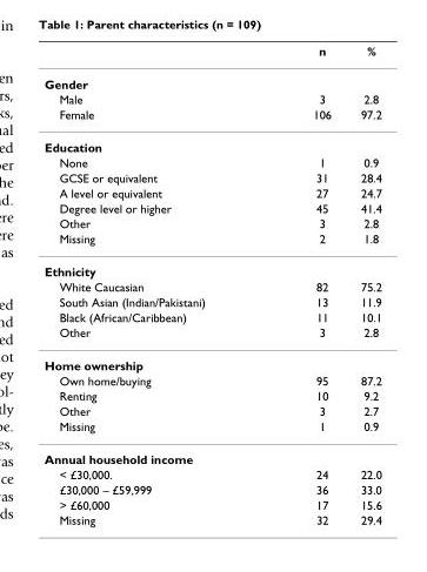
<table><thead><tr><td></td><td>n</td><td>%</td></tr></thead><tbody><tr><td colspan="3">Gender</td></tr><tr><td>Male</td><td>3</td><td>2.8</td></tr><tr><td>Female</td><td>106</td><td>97.2</td></tr><tr><td colspan="3">Education</td></tr><tr><td>None</td><td>1</td><td>0.9</td></tr><tr><td>GCSE or equivalent</td><td>31</td><td>28.4</td></tr><tr><td>A level or equivalent</td><td>27</td><td>24.7</td></tr><tr><td>Degree level or higher</td><td>45</td><td>41.4</td></tr><tr><td>Other</td><td>3</td><td>2.8</td></tr><tr><td>Missing</td><td>2</td><td>1.8</td></tr><tr><td colspan="3">Ethnicity</td></tr><tr><td>White Caucasian</td><td>82</td><td>75.2</td></tr><tr><td>South Asian (Indian/Pakistani)</td><td>13</td><td>11.9</td></tr><tr><td>Black (African/Caribbean)</td><td>11</td><td>10.1</td></tr><tr><td>Other</td><td>3</td><td>2.8</td></tr><tr><td colspan="3">Home ownership</td></tr><tr><td>Own home/buying</td><td>95</td><td>87.2</td></tr><tr><td>Renting</td><td>10</td><td>9.2</td></tr><tr><td>Other</td><td>3</td><td>2.7</td></tr><tr><td>Missing</td><td>1</td><td>0.9</td></tr><tr><td colspan="3">Annual household income</td></tr><tr><td>&lt; £30,000.</td><td>24</td><td>22.0</td></tr><tr><td>£30,000 – £59,999</td><td>36</td><td>33.0</td></tr><tr><td>&gt; £60,000</td><td>17</td><td>15.6</td></tr><tr><td>Missing</td><td>32</td><td>29.4</td></tr></tbody></table>